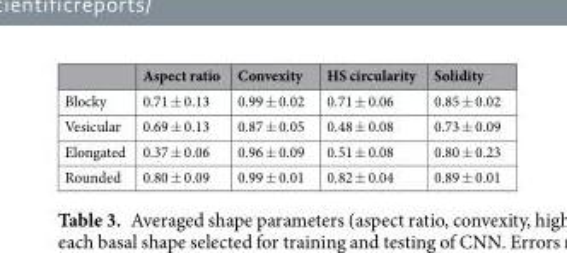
<table><thead><tr><td></td><td>Aspect ratio</td><td>Convexity</td><td>HS circularity</td><td>Solidity</td></tr></thead><tbody><tr><td>Blocky</td><td>0.71 ± 0.13</td><td>0.99 ± 0.02</td><td>0.71 ± 0.06</td><td>0.85 ± 0.02</td></tr><tr><td>Vesicular</td><td>0.69 ± 0.13</td><td>0.87 ± 0.05</td><td>0.48 ± 0.08</td><td>0.73 ± 0.09</td></tr><tr><td>Elongated</td><td>0.37 ± 0.06</td><td>0.96 ± 0.09</td><td>0.51 ± 0.08</td><td>0.80 ± 0.23</td></tr><tr><td>Rounded</td><td>0.80 ± 0.09</td><td>0.99 ± 0.01</td><td>0.82 ± 0.04</td><td>0.89 ± 0.01</td></tr></tbody></table>